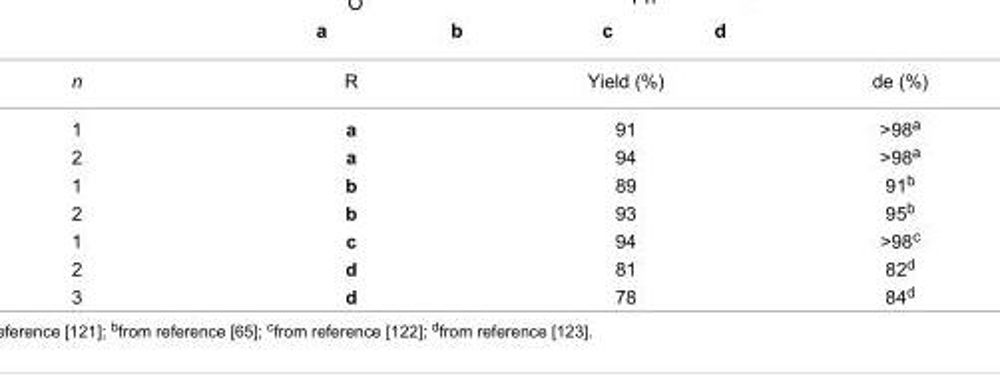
<table><tbody><tr><td>n</td><td>R</td><td>Yield (%)</td><td>de (%)</td></tr><tr><td>1</td><td>a</td><td>91</td><td>&gt;98<sup>a</sup></td></tr><tr><td>2</td><td>a</td><td>94</td><td>&gt;98<sup>a</sup></td></tr><tr><td>1</td><td>b</td><td>89</td><td>91<sup>b</sup></td></tr><tr><td>2</td><td>b</td><td>93</td><td>95<sup>b</sup></td></tr><tr><td>1</td><td>c</td><td>94</td><td>&gt;98<sup>c</sup></td></tr><tr><td>2</td><td>d</td><td>81</td><td>82<sup>d</sup></td></tr><tr><td>3</td><td>d</td><td>78</td><td>84<sup>d</sup></td></tr></tbody></table>